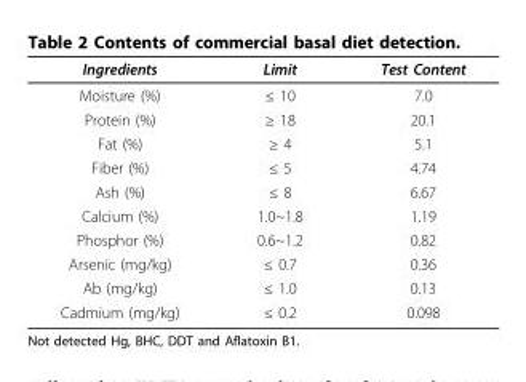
<table><thead><tr><td>Ingredients</td><td>Limit</td><td>Test Content</td></tr></thead><tbody><tr><td>Moisture (%)</td><td>≤ 10</td><td>7.0</td></tr><tr><td>Protein (%)</td><td>≥ 18</td><td>20.1</td></tr><tr><td>Fat (%)</td><td>≥ 4</td><td>5.1</td></tr><tr><td>Fiber (%)</td><td>≤ 5</td><td>4.74</td></tr><tr><td>Ash (%)</td><td>≤ 8</td><td>6.67</td></tr><tr><td>Calcium (%)</td><td>1.0~1.8</td><td>1.19</td></tr><tr><td>Phosphor (%)</td><td>0.6~1.2</td><td>0.82</td></tr><tr><td>Arsenic (mg/kg)</td><td>≤ 0.7</td><td>0.36</td></tr><tr><td>Ab (mg/kg)</td><td>≤ 1.0</td><td>0.13</td></tr><tr><td>Cadmium (mg/kg)</td><td>≤ 0.2</td><td>0.098</td></tr></tbody></table>